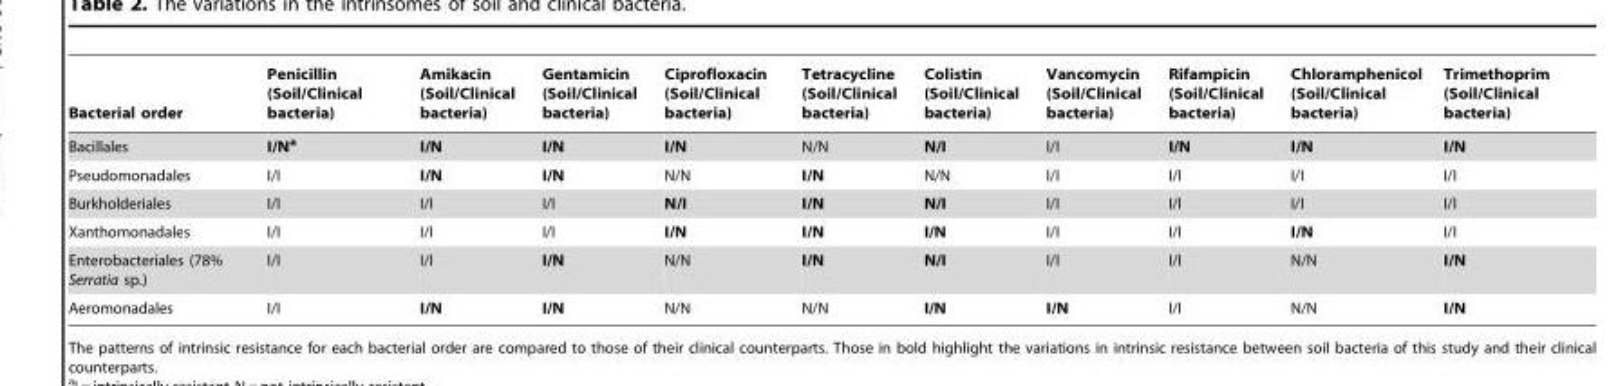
<table><thead><tr><td>Bacterial order</td><td>Penicillin (Soil/Clinical bacteria)</td><td>Amikacin (Soil/Clinical bacteria)</td><td>Gentamicin (Soil/Clinical bacteria)</td><td>Ciprofloxacin (Soil/Clinical bacteria)</td><td>Tetracycline (Soil/Clinical bacteria)</td><td>Colistin (Soil/Clinical bacteria)</td><td>Vancomycin (Soil/Clinical bacteria)</td><td>Rifampicin (Soil/Clinical bacteria)</td><td>Chloramphenicol (Soil/Clinical bacteria)</td><td>Trimethoprim (Soil/Clinical bacteria)</td></tr></thead><tbody><tr><td>Bacillales</td><td>I/Na</td><td>I/N</td><td>I/N</td><td>I/N</td><td>N/N</td><td>N/I</td><td>I/I</td><td>I/N</td><td>I/N</td><td>I/N</td></tr><tr><td>Pseudomonadales</td><td>I/I</td><td>I/N</td><td>I/N</td><td>N/N</td><td>I/N</td><td>N/N</td><td>I/I</td><td>I/I</td><td>I/I</td><td>I/I</td></tr><tr><td>Burkholderiales</td><td>I/I</td><td>I/I</td><td>I/I</td><td>N/I</td><td>I/N</td><td>N/I</td><td>I/I</td><td>I/I</td><td>I/I</td><td>I/I</td></tr><tr><td>Xanthomonadales</td><td>I/I</td><td>I/I</td><td>I/I</td><td>I/N</td><td>I/N</td><td>I/N</td><td>I/I</td><td>I/I</td><td>I/N</td><td>I/I</td></tr><tr><td>Enterobacteriales (78% Serratia sp.)</td><td>I/I</td><td>I/I</td><td>I/N</td><td>N/N</td><td>I/N</td><td>N/I</td><td>I/I</td><td>I/I</td><td>N/N</td><td>I/N</td></tr><tr><td>Aeromonadales</td><td>I/I</td><td>I/N</td><td>I/N</td><td>N/N</td><td>N/N</td><td>I/N</td><td>I/N</td><td>I/I</td><td>N/N</td><td>I/N</td></tr></tbody></table>